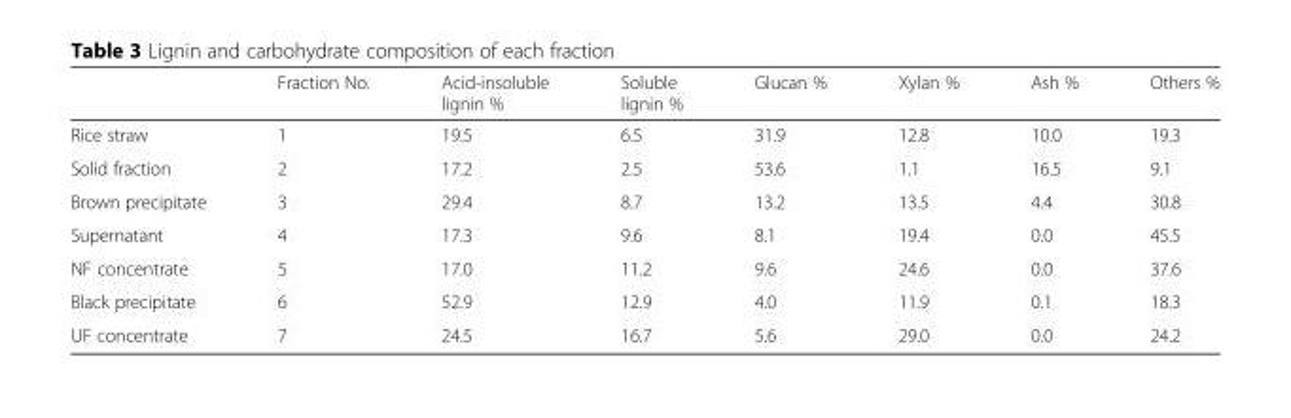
<table><thead><tr><td></td><td>Fraction No.</td><td>Acid-insoluble lignin %</td><td>Soluble lignin %</td><td>Glucan %</td><td>Xylan %</td><td>Ash %</td><td>Others %</td></tr></thead><tbody><tr><td>Rice straw</td><td>1</td><td>19.5</td><td>6.5</td><td>31.9</td><td>12.8</td><td>10.0</td><td>19.3</td></tr><tr><td>Solid fraction</td><td>2</td><td>17.2</td><td>2.5</td><td>53.6</td><td>1.1</td><td>16.5</td><td>9.1</td></tr><tr><td>Brown precipitate</td><td>3</td><td>29.4</td><td>8.7</td><td>13.2</td><td>13.5</td><td>4.4</td><td>30.8</td></tr><tr><td>Supernatant</td><td>4</td><td>17.3</td><td>9.6</td><td>8.1</td><td>19.4</td><td>0.0</td><td>45.5</td></tr><tr><td>NF concentrate</td><td>5</td><td>17.0</td><td>11.2</td><td>9.6</td><td>24.6</td><td>0.0</td><td>37.6</td></tr><tr><td>Black precipitate</td><td>6</td><td>52.9</td><td>12.9</td><td>4.0</td><td>11.9</td><td>0.1</td><td>18.3</td></tr><tr><td>UF concentrate</td><td>7</td><td>24.5</td><td>16.7</td><td>5.6</td><td>29.0</td><td>0.0</td><td>24.2</td></tr></tbody></table>